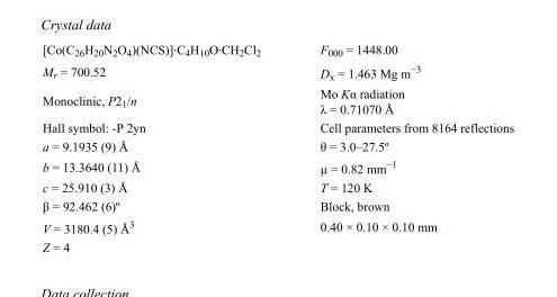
<table><tbody><tr><td>[Co(C<sub>26</sub>H<sub>20</sub>N<sub>2</sub>O<sub>4</sub>)(NCS)]·C<sub>4</sub>H<sub>10</sub>O·CH<sub>2</sub>Cl<sub>2</sub></td><td>F000 = 1448.00</td></tr><tr><td>M<sub>r</sub> = 700.52</td><td>D<sub>x</sub> = 1.463 Mg m<sup>−3</sup></td></tr><tr><td>Monoclinic, P2<sub>1</sub>/n</td><td>Mo Kα radiation λ = 0.71070 Å</td></tr><tr><td>Hall symbol: -P 2yn</td><td>Cell parameters from 8164 reflections</td></tr><tr><td>a = 9.1935 (9) Å</td><td>θ = 3.0–27.5º</td></tr><tr><td>b = 13.3640 (11) Å</td><td>µ = 0.82 mm<sup>−1</sup></td></tr><tr><td>c = 25.910 (3) Å</td><td>T = 120 K</td></tr><tr><td>β = 92.462 (6)º</td><td>Block, brown</td></tr><tr><td>V = 3180.4 (5) Å<sup>3</sup></td><td>0.40 × 0.10 × 0.10 mm</td></tr><tr><td>Z = 4</td><td></td></tr></tbody></table>